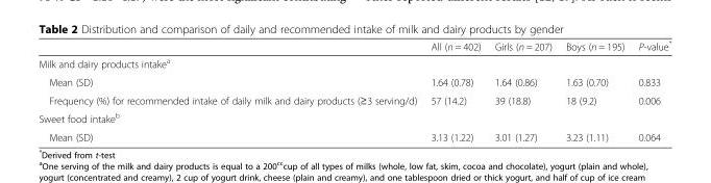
<table><thead><tr><td></td><td>All (n = 402)</td><td>Girls (n = 207)</td><td>Boys (n = 195)</td><td>P-value*</td></tr></thead><tbody><tr><td colspan="5">Milk and dairy products intake<sup>a</sup></td></tr><tr><td>Mean (SD)</td><td>1.64 (0.78)</td><td>1.64 (0.86)</td><td>1.63 (0.70)</td><td>0.833</td></tr><tr><td>Frequency (%) for recommended intake of daily milk and dairy products (≥3 serving/d)</td><td>57 (14.2)</td><td>39 (18.8)</td><td>18 (9.2)</td><td>0.006</td></tr><tr><td colspan="5">Sweet food intake<sup>b</sup></td></tr><tr><td>Mean (SD)</td><td>3.13 (1.22)</td><td>3.01 (1.27)</td><td>3.23 (1.11)</td><td>0.064</td></tr></tbody></table>